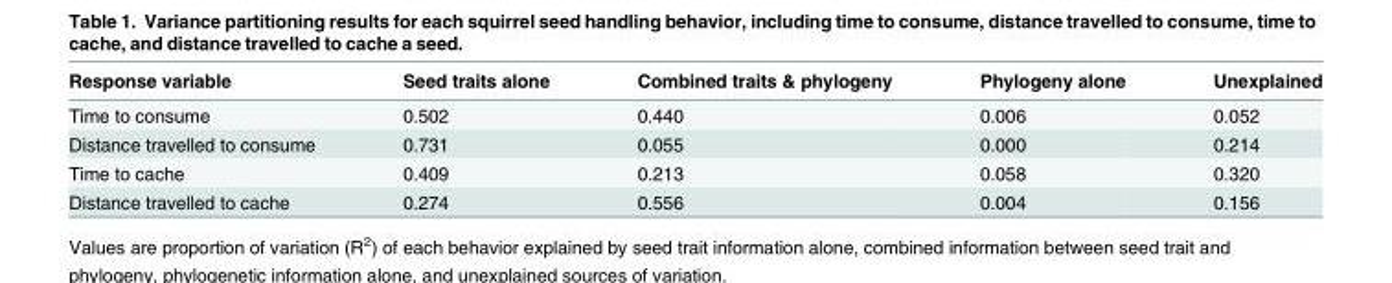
<table><thead><tr><td>Response variable</td><td>Seed traits alone</td><td>Combined traits &amp; phylogeny</td><td>Phylogeny alone</td><td>Unexplained</td></tr></thead><tbody><tr><td>Time to consume</td><td>0.502</td><td>0.440</td><td>0.006</td><td>0.052</td></tr><tr><td>Distance travelled to consume</td><td>0.731</td><td>0.055</td><td>0.000</td><td>0.214</td></tr><tr><td>Time to cache</td><td>0.409</td><td>0.213</td><td>0.058</td><td>0.320</td></tr><tr><td>Distance travelled to cache</td><td>0.274</td><td>0.556</td><td>0.004</td><td>0.156</td></tr></tbody></table>